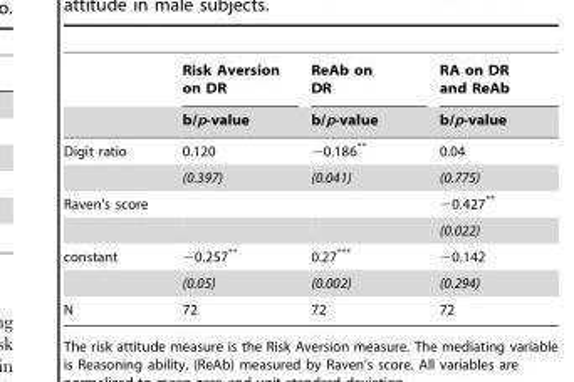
<table><thead><tr><td rowspan="2"></td><td rowspan="2">Risk Aversion on DR b/p-value</td><td rowspan="2">ReAb on DR b/p-value</td><td rowspan="2">RA on DR and ReAb b/p-value</td></tr><tr></tr></thead><tbody><tr><td rowspan="2">Digit ratio</td><td>0.120</td><td>−0.186**</td><td>0.04</td></tr><tr><td>(0.397)</td><td>(0.041)</td><td>(0.775)</td></tr><tr><td rowspan="2">Raven’s score</td><td></td><td></td><td>−0.427**</td></tr><tr><td></td><td></td><td>(0.022)</td></tr><tr><td rowspan="2">constant</td><td>−0.257**</td><td>0.27***</td><td>−0.142</td></tr><tr><td>(0.05)</td><td>(0.002)</td><td>(0.294)</td></tr><tr><td>N</td><td>72</td><td>72</td><td>72</td></tr></tbody></table>